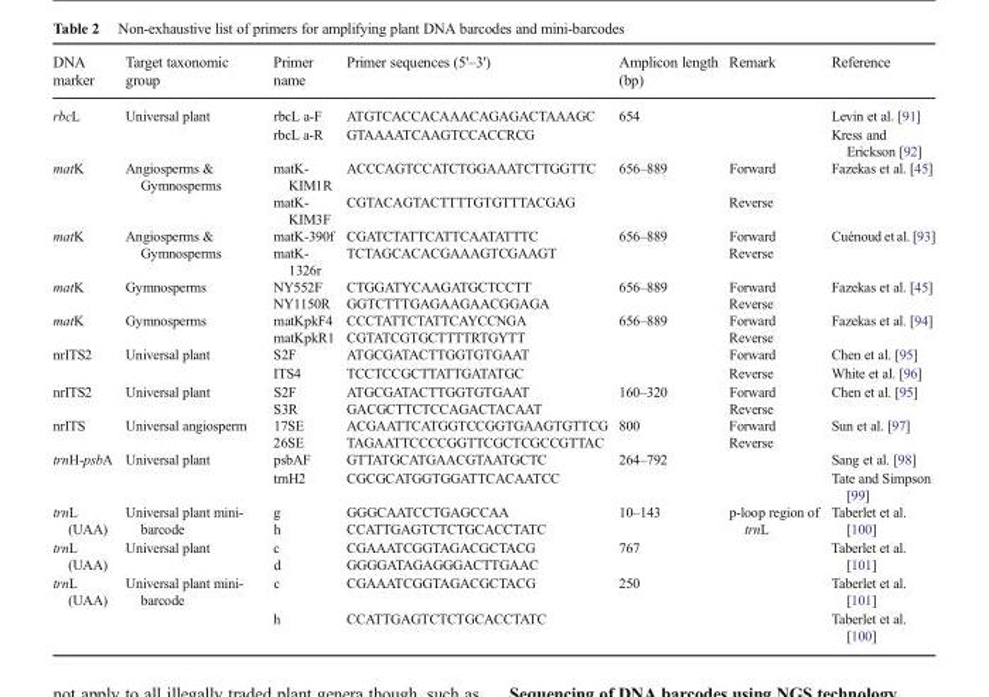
<table><thead><tr><td>DNA marker</td><td>Target taxonomic group</td><td>Primer name</td><td>Primer sequences (5&#x27;–3&#x27;)</td><td>Amplicon length (bp)</td><td>Remark</td><td>Reference</td></tr></thead><tbody><tr><td rowspan="2">rbcL</td><td rowspan="2">Universal plant</td><td>rbcL a-F</td><td>ATGTCACCACAAACAGAGACTAAAGC</td><td rowspan="2">654</td><td rowspan="2"></td><td>Levin et al. [91]</td></tr><tr><td>rbcL a-R</td><td>GTAAAATCAAGTCCACCRCG</td><td>Kress and Erickson [92]</td></tr><tr><td rowspan="2">matK</td><td rowspan="2">Angiosperms &amp; Gymnosperms</td><td>matK- KIM1R</td><td>ACCCAGTCCATCTGGAAATCTTGGTTC</td><td rowspan="2">656–889</td><td>Forward</td><td rowspan="2">Fazekas et al. [45]</td></tr><tr><td>matK- KIM3F</td><td>CGTACAGTACTTTTGTGTTTACGAG</td><td>Reverse</td></tr><tr><td rowspan="2">matK</td><td rowspan="2">Angiosperms &amp; Gymnosperms</td><td>matK-390f</td><td>CGATCTATTCATTCAATATTTC</td><td rowspan="2">656–889</td><td>Forward</td><td rowspan="2">Cuénoud et al. [93]</td></tr><tr><td>matK- 1326r</td><td>TCTAGCACACGAAAGTCGAAGT</td><td>Reverse</td></tr><tr><td rowspan="2">matK</td><td rowspan="2">Gymnosperms</td><td>NY552F</td><td>CTGGATYCAAGATGCTCCTT</td><td rowspan="2">656–889</td><td>Forward</td><td rowspan="2">Fazekas et al. [45]</td></tr><tr><td>NY1150R</td><td>GGTCTTTGAGAAGAACGGAGA</td><td>Reverse</td></tr><tr><td rowspan="2">matK</td><td rowspan="2">Gymnosperms</td><td>matKpkF4</td><td>CCCTATTCTATTCAYCCNGA</td><td rowspan="2">656–889</td><td>Forward</td><td rowspan="2">Fazekas et al. [94]</td></tr><tr><td>matKpkR1</td><td>CGTATCGTGCTTTTRTGYTT</td><td>Reverse</td></tr><tr><td rowspan="2">nrITS2</td><td rowspan="2">Universal plant</td><td>S2F</td><td>ATGCGATACTTGGTGTGAAT</td><td rowspan="2"></td><td>Forward</td><td>Chen et al. [95]</td></tr><tr><td>ITS4</td><td>TCCTCCGCTTATTGATATGC</td><td>Reverse</td><td>White et al. [96]</td></tr><tr><td rowspan="2">nrITS2</td><td rowspan="2">Universal plant</td><td>S2F</td><td>ATGCGATACTTGGTGTGAAT</td><td rowspan="2">160–320</td><td>Forward</td><td rowspan="2">Chen et al. [95]</td></tr><tr><td>S3R</td><td>GACGCTTCTCCAGACTACAAT</td><td>Reverse</td></tr><tr><td rowspan="2">nrITS</td><td rowspan="2">Universal angiosperm</td><td>17SE</td><td>ACGAATTCATGGTCCGGTGAAGTGTTCG</td><td rowspan="2">800</td><td>Forward</td><td rowspan="2">Sun et al. [97]</td></tr><tr><td>26SE</td><td>TAGAATTCCCCGGTTCGCTCGCCGTTAC</td><td>Reverse</td></tr><tr><td rowspan="2">trnH-psbA</td><td rowspan="2">Universal plant</td><td>psbAF</td><td>GTTATGCATGAACGTAATGCTC</td><td rowspan="2">264–792</td><td rowspan="2"></td><td>Sang et al. [98]</td></tr><tr><td>trnH2</td><td>CGCGCATGGTGGATTCACAATCC</td><td>Tate and Simpson [99]</td></tr><tr><td rowspan="2">trnL (UAA)</td><td rowspan="2">Universal plant mini- barcode</td><td>g</td><td>GGGCAATCCTGAGCCAA</td><td rowspan="2">10–143</td><td rowspan="2">p-loop region of trnL</td><td rowspan="2">Taberlet et al. [100]</td></tr><tr><td>h</td><td>CCATTGAGTCTCTGCACCTATC</td></tr><tr><td rowspan="2">trnL (UAA)</td><td rowspan="2">Universal plant</td><td>c</td><td>CGAAATCGGTAGACGCTACG</td><td rowspan="2">767</td><td rowspan="2"></td><td rowspan="2">Taberlet et al. [101]</td></tr><tr><td>d</td><td>GGGGATAGAGGGACTTGAAC</td></tr><tr><td rowspan="2">trnL (UAA)</td><td rowspan="2">Universal plant mini- barcode</td><td>c</td><td>CGAAATCGGTAGACGCTACG</td><td rowspan="2">250</td><td rowspan="2"></td><td>Taberlet et al. [101]</td></tr><tr><td>h</td><td>CCATTGAGTCTCTGCACCTATC</td><td>Taberlet et al. [100]</td></tr></tbody></table>